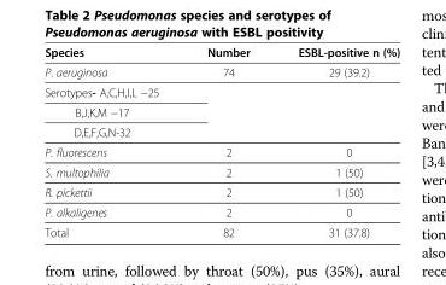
<table><thead><tr><td>Species</td><td>Number</td><td>ESBL-positive n (%)</td></tr></thead><tbody><tr><td>P. aeruginosa</td><td>74</td><td>29 (39.2)</td></tr><tr><td colspan="3">Serotypes- A,C,H,I,L −25</td></tr><tr><td colspan="3">B,J,K,M −17</td></tr><tr><td colspan="3">D,E,F,G,N-32</td></tr><tr><td>P. fluorescens</td><td>2</td><td>0</td></tr><tr><td>S. multophilia</td><td>2</td><td>1 (50)</td></tr><tr><td>R. pickettii</td><td>2</td><td>1 (50)</td></tr><tr><td>P. alkaligenes</td><td>2</td><td>0</td></tr><tr><td>Total</td><td>82</td><td>31 (37.8)</td></tr></tbody></table>